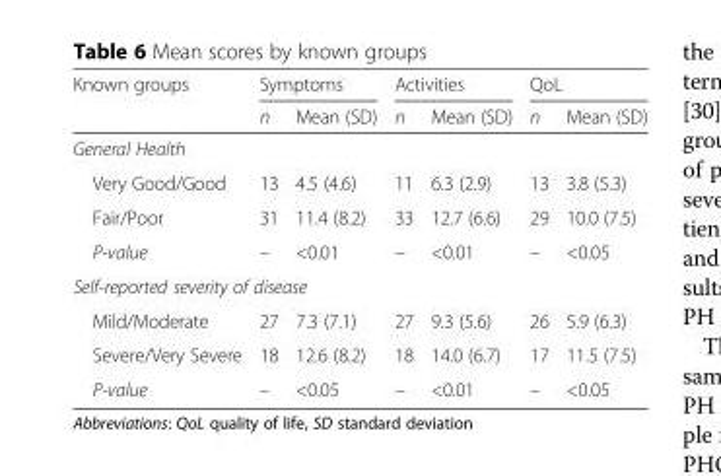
<table><thead><tr><td rowspan="2">Known groups</td><td colspan="2">Symptoms</td><td colspan="2">Activities</td><td colspan="2">QoL</td></tr><tr><td>n</td><td>Mean (SD)</td><td>n</td><td>Mean (SD)</td><td>n</td><td>Mean (SD)</td></tr></thead><tbody><tr><td colspan="7">General Health</td></tr><tr><td>Very Good/Good</td><td>13</td><td>4.5 (4.6)</td><td>11</td><td>6.3 (2.9)</td><td>13</td><td>3.8 (5.3)</td></tr><tr><td>Fair/Poor</td><td>31</td><td>11.4 (8.2)</td><td>33</td><td>12.7 (6.6)</td><td>29</td><td>10.0 (7.5)</td></tr><tr><td>P-value</td><td>–</td><td>&lt;0.01</td><td>–</td><td>&lt;0.01</td><td>–</td><td>&lt;0.05</td></tr><tr><td colspan="7">Self-reported severity of disease</td></tr><tr><td>Mild/Moderate</td><td>27</td><td>7.3 (7.1)</td><td>27</td><td>9.3 (5.6)</td><td>26</td><td>5.9 (6.3)</td></tr><tr><td>Severe/Very Severe</td><td>18</td><td>12.6 (8.2)</td><td>18</td><td>14.0 (6.7)</td><td>17</td><td>11.5 (7.5)</td></tr><tr><td>P-value</td><td>–</td><td>&lt;0.05</td><td>–</td><td>&lt;0.01</td><td>–</td><td>&lt;0.05</td></tr></tbody></table>